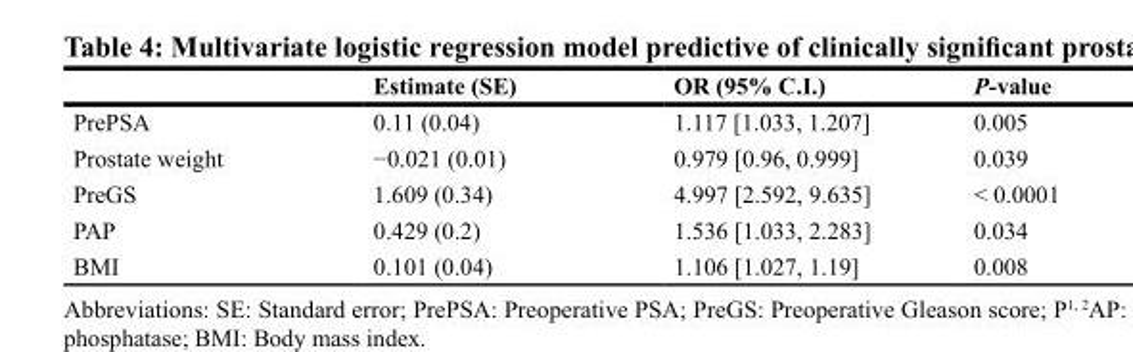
<table><thead><tr><td></td><td>Estimate (SE)</td><td>OR (95% C.I.)</td><td>P-value</td></tr></thead><tbody><tr><td>PrePSA</td><td>0.11 (0.04)</td><td>1.117 [1.033, 1.207]</td><td>0.005</td></tr><tr><td>Prostate weight</td><td>−0.021 (0.01)</td><td>0.979 [0.96, 0.999]</td><td>0.039</td></tr><tr><td>PreGS</td><td>1.609 (0.34)</td><td>4.997 [2.592, 9.635]</td><td>&lt; 0.0001</td></tr><tr><td>PAP</td><td>0.429 (0.2)</td><td>1.536 [1.033, 2.283]</td><td>0.034</td></tr><tr><td>BMI</td><td>0.101 (0.04)</td><td>1.106 [1.027, 1.19]</td><td>0.008</td></tr></tbody></table>